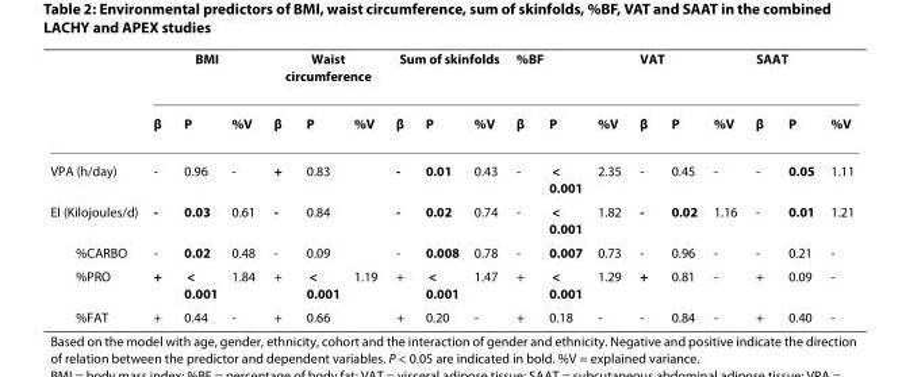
<table><thead><tr><td rowspan="2"></td><td colspan="3">BMI</td><td colspan="3">Waist circumference</td><td colspan="3">Sum of skinfolds</td><td colspan="3">%BF</td><td colspan="3">VAT</td><td colspan="3">SAAT</td></tr><tr><td>β</td><td>P</td><td>%V</td><td>β</td><td>P</td><td>%V</td><td>β</td><td>P</td><td>%V</td><td>β</td><td>P</td><td>%V</td><td>β</td><td>P</td><td>%V</td><td>β</td><td>P</td><td>%V</td></tr></thead><tbody><tr><td>VPA (h/day)</td><td>-</td><td>0.96</td><td>-</td><td>+</td><td>0.83</td><td></td><td>-</td><td>0.01</td><td>0.43</td><td>-</td><td>&lt; 0.001</td><td>2.35</td><td>-</td><td>0.45</td><td>-</td><td>-</td><td>0.05</td><td>1.11</td></tr><tr><td>EI (Kilojoules/d)</td><td>-</td><td>0.03</td><td>0.61</td><td>-</td><td>0.84</td><td></td><td>-</td><td>0.02</td><td>0.74</td><td>-</td><td>&lt; 0.001</td><td>1.82</td><td>-</td><td>0.02</td><td>1.16</td><td>-</td><td>0.01</td><td>1.21</td></tr><tr><td>%CARBO</td><td>-</td><td>0.02</td><td>0.48</td><td>-</td><td>0.09</td><td></td><td>-</td><td>0.008</td><td>0.78</td><td>-</td><td>0.007</td><td>0.73</td><td>-</td><td>0.96</td><td>-</td><td>-</td><td>0.21</td><td>-</td></tr><tr><td>%PRO</td><td>+</td><td>&lt; 0.001</td><td>1.84</td><td>+</td><td>&lt; 0.001</td><td>1.19</td><td>+</td><td>&lt; 0.001</td><td>1.47</td><td>+</td><td>&lt; 0.001</td><td>1.29</td><td>+</td><td>0.81</td><td>-</td><td>+</td><td>0.09</td><td>-</td></tr><tr><td>%FAT</td><td>+</td><td>0.44</td><td>-</td><td>+</td><td>0.66</td><td></td><td>+</td><td>0.20</td><td>-</td><td>+</td><td>0.18</td><td>-</td><td>-</td><td>0.84</td><td>-</td><td>+</td><td>0.40</td><td>-</td></tr></tbody></table>